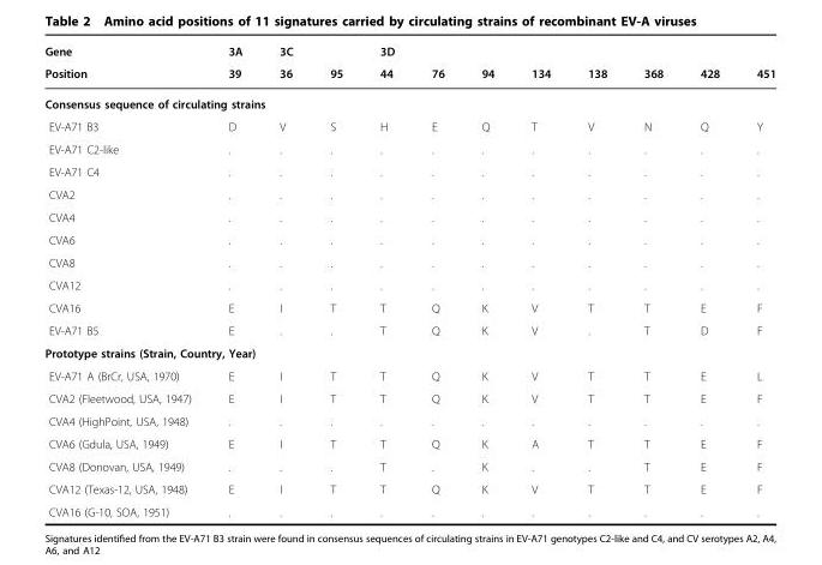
<table><thead><tr><td rowspan="2">Gene Position</td><td rowspan="2">3A 39</td><td rowspan="2">3C 36</td><td rowspan="2">95</td><td rowspan="2">3D 44</td><td rowspan="2">76</td><td rowspan="2">94</td><td rowspan="2">134</td><td rowspan="2">138</td><td rowspan="2">368</td><td rowspan="2">428</td><td rowspan="2">451</td></tr><tr></tr></thead><tbody><tr><td colspan="12">Consensus sequence of circulating strains</td></tr><tr><td>EV-A71 B3</td><td>D</td><td>V</td><td>S</td><td>H</td><td>E</td><td>Q</td><td>T</td><td>V</td><td>N</td><td>Q</td><td>Y</td></tr><tr><td>EV-A71 C2-like</td><td>.</td><td>.</td><td>.</td><td>.</td><td>.</td><td>.</td><td>.</td><td>.</td><td>.</td><td>.</td><td>.</td></tr><tr><td>EV-A71 C4</td><td>.</td><td>.</td><td>.</td><td>.</td><td>.</td><td>.</td><td>.</td><td>.</td><td>.</td><td>.</td><td>.</td></tr><tr><td>CVA2</td><td>.</td><td>.</td><td>.</td><td>.</td><td>.</td><td>.</td><td>.</td><td>.</td><td>.</td><td>.</td><td>.</td></tr><tr><td>CVA4</td><td>.</td><td>.</td><td>.</td><td>.</td><td>.</td><td>.</td><td>.</td><td>.</td><td>.</td><td>.</td><td>.</td></tr><tr><td>CVA6</td><td>.</td><td>.</td><td>.</td><td>.</td><td>.</td><td>.</td><td>.</td><td>.</td><td>.</td><td>.</td><td>.</td></tr><tr><td>CVA8</td><td>.</td><td>.</td><td>.</td><td>.</td><td>.</td><td>.</td><td>.</td><td>.</td><td>.</td><td>.</td><td>.</td></tr><tr><td>CVA12</td><td>.</td><td>.</td><td>.</td><td>.</td><td>.</td><td>.</td><td>.</td><td>.</td><td>.</td><td>.</td><td>.</td></tr><tr><td>CVA16</td><td>E</td><td>I</td><td>T</td><td>T</td><td>Q</td><td>K</td><td>V</td><td>T</td><td>T</td><td>E</td><td>F</td></tr><tr><td>EV-A71 B5</td><td>E</td><td>.</td><td>.</td><td>T</td><td>Q</td><td>K</td><td>V</td><td>.</td><td>T</td><td>D</td><td>F</td></tr><tr><td colspan="12">Prototype strains (Strain, Country, Year)</td></tr><tr><td>EV-A71 A (BrCr, USA, 1970)</td><td>E</td><td>I</td><td>T</td><td>T</td><td>Q</td><td>K</td><td>V</td><td>T</td><td>T</td><td>E</td><td>L</td></tr><tr><td>CVA2 (Fleetwood, USA, 1947)</td><td>E</td><td>I</td><td>T</td><td>T</td><td>Q</td><td>K</td><td>V</td><td>T</td><td>T</td><td>E</td><td>F</td></tr><tr><td>CVA4 (HighPoint, USA, 1948)</td><td>.</td><td>.</td><td>.</td><td>.</td><td>.</td><td>.</td><td>.</td><td>.</td><td>.</td><td>.</td><td>.</td></tr><tr><td>CVA6 (Gdula, USA, 1949)</td><td>E</td><td>I</td><td>T</td><td>T</td><td>Q</td><td>K</td><td>A</td><td>T</td><td>T</td><td>E</td><td>F</td></tr><tr><td>CVA8 (Donovan, USA, 1949)</td><td>.</td><td>.</td><td>.</td><td>T</td><td>.</td><td>K</td><td>.</td><td>.</td><td>T</td><td>E</td><td>F</td></tr><tr><td>CVA12 (Texas-12, USA, 1948)</td><td>E</td><td>I</td><td>T</td><td>T</td><td>Q</td><td>K</td><td>V</td><td>T</td><td>T</td><td>E</td><td>F</td></tr><tr><td>CVA16 (G-10, SOA, 1951)</td><td>.</td><td>.</td><td>.</td><td>.</td><td>.</td><td>.</td><td>.</td><td>.</td><td>.</td><td>.</td><td>.</td></tr></tbody></table>